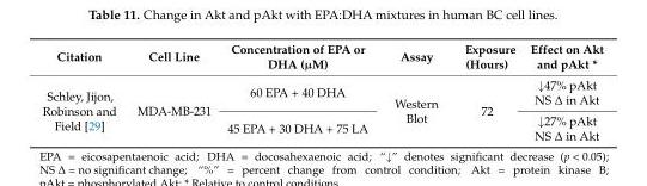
<table><thead><tr><td>Citation</td><td>Cell Line</td><td>Concentration of EPA or DHA (µM)</td><td>Assay</td><td>Exposure (Hours)</td><td>Effect on Akt and pAkt *</td></tr></thead><tbody><tr><td rowspan="2">Schley, Jijon, Robinson and Field [29]</td><td rowspan="2">MDA-MB-231</td><td>60 EPA + 40 DHA</td><td rowspan="2">Western Blot</td><td rowspan="2">72</td><td>↓47% pAkt NS ∆ in Akt</td></tr><tr><td>45 EPA + 30 DHA + 75 LA</td><td>↓27% pAkt NS ∆ in Akt</td></tr></tbody></table>